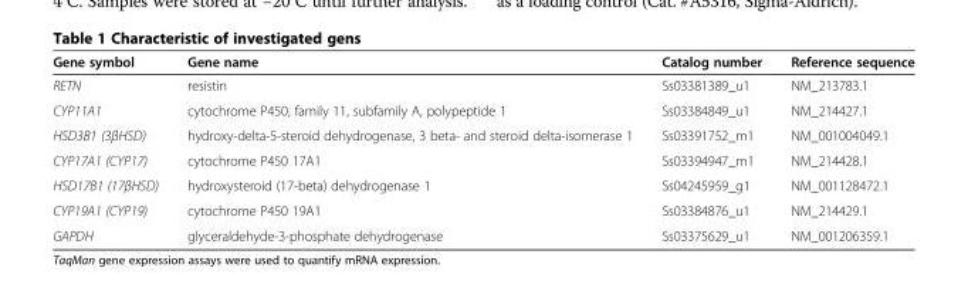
<table><thead><tr><td>Gene symbol</td><td>Gene name</td><td>Catalog number</td><td>Reference sequence</td></tr></thead><tbody><tr><td>RETN</td><td>resistin</td><td>Ss03381389_u1</td><td>NM_213783.1</td></tr><tr><td>CYP11A1</td><td>cytochrome P450, family 11, subfamily A, polypeptide 1</td><td>Ss03384849_u1</td><td>NM_214427.1</td></tr><tr><td>HSD3B1 (3βHSD)</td><td>hydroxy-delta-5-steroid dehydrogenase, 3 beta- and steroid delta-isomerase 1</td><td>Ss03391752_m1</td><td>NM_001004049.1</td></tr><tr><td>CYP17A1 (CYP17)</td><td>cytochrome P450 17A1</td><td>Ss03394947_m1</td><td>NM_214428.1</td></tr><tr><td>HSD17B1 (17βHSD)</td><td>hydroxysteroid (17-beta) dehydrogenase 1</td><td>Ss04245959_g1</td><td>NM_001128472.1</td></tr><tr><td>CYP19A1 (CYP19)</td><td>cytochrome P450 19A1</td><td>Ss03384876_u1</td><td>NM_214429.1</td></tr><tr><td>GAPDH</td><td>glyceraldehyde-3-phosphate dehydrogenase</td><td>Ss03375629_u1</td><td>NM_001206359.1</td></tr></tbody></table>